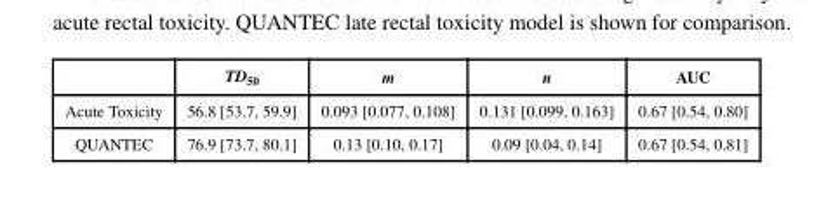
<table><thead><tr><td></td><td>TD<sub>50</sub></td><td>m</td><td>n</td><td>AUC</td></tr></thead><tbody><tr><td>Acute Toxicity</td><td>56.8 [53.7, 59.9]</td><td>0.093 [0.077, 0.108]</td><td>0.131 [0.099, 0.163]</td><td>0.67 [0.54, 0.80]</td></tr><tr><td>QUANTEC</td><td>76.9 [73.7, 80.1]</td><td>0.13 [0.10, 0.17]</td><td>0.09 [0.04, 0.14]</td><td>0.67 [0.54, 0.81]</td></tr></tbody></table>